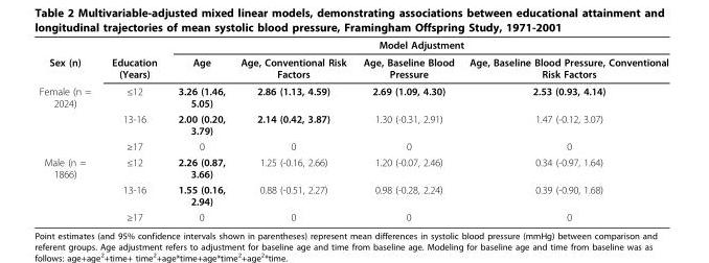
<table><thead><tr><td rowspan="2">Sex (n)</td><td rowspan="2">Education (Years)</td><td colspan="4">Model Adjustment</td></tr><tr><td>Age</td><td>Age, Conventional Risk Factors</td><td>Age, Baseline Blood Pressure</td><td>Age, Baseline Blood Pressure, Conventional Risk Factors</td></tr></thead><tbody><tr><td rowspan="3">Female (n = 2024)</td><td>≤12</td><td>3.26 (1.46, 5.05)</td><td>2.86 (1.13, 4.59)</td><td>2.69 (1.09, 4.30)</td><td>2.53 (0.93, 4.14)</td></tr><tr><td>13-16</td><td>2.00 (0.20, 3.79)</td><td>2.14 (0.42, 3.87)</td><td>1.30 (-0.31, 2.91)</td><td>1.47 (-0.12, 3.07)</td></tr><tr><td>≥17</td><td>0</td><td>0</td><td>0</td><td>0</td></tr><tr><td rowspan="3">Male (n = 1866)</td><td>≤12</td><td>2.26 (0.87, 3.66)</td><td>1.25 (-0.16, 2.66)</td><td>1.20 (-0.07, 2.46)</td><td>0.34 (-0.97, 1.64)</td></tr><tr><td>13-16</td><td>1.55 (0.16, 2.94)</td><td>0.88 (-0.51, 2.27)</td><td>0.98 (-0.28, 2.24)</td><td>0.39 (-0.90, 1.68)</td></tr><tr><td>≥17</td><td>0</td><td>0</td><td>0</td><td>0</td></tr></tbody></table>